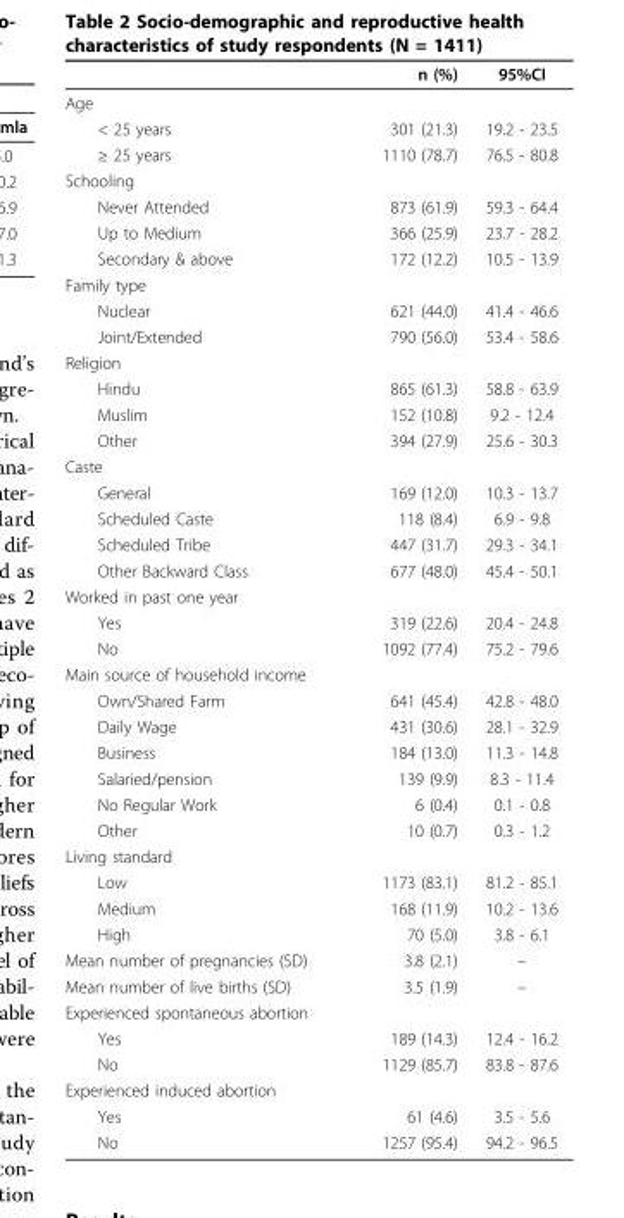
<table><thead><tr><td></td><td>n (%)</td><td>95%CI</td></tr></thead><tbody><tr><td colspan="3">Age</td></tr><tr><td>&lt; 25 years</td><td>301 (21.3)</td><td>19.2 - 23.5</td></tr><tr><td>≥ 25 years</td><td>1110 (78.7)</td><td>76.5 - 80.8</td></tr><tr><td colspan="3">Schooling</td></tr><tr><td>Never Attended</td><td>873 (61.9)</td><td>59.3 - 64.4</td></tr><tr><td>Up to Medium</td><td>366 (25.9)</td><td>23.7 - 28.2</td></tr><tr><td>Secondary &amp; above</td><td>172 (12.2)</td><td>10.5 - 13.9</td></tr><tr><td colspan="3">Family type</td></tr><tr><td>Nuclear</td><td>621 (44.0)</td><td>41.4 - 46.6</td></tr><tr><td>Joint/Extended</td><td>790 (56.0)</td><td>53.4 - 58.6</td></tr><tr><td colspan="3">Religion</td></tr><tr><td>Hindu</td><td>865 (61.3)</td><td>58.8 - 63.9</td></tr><tr><td>Muslim</td><td>152 (10.8)</td><td>9.2 - 12.4</td></tr><tr><td>Other</td><td>394 (27.9)</td><td>25.6 - 30.3</td></tr><tr><td colspan="3">Caste</td></tr><tr><td>General</td><td>169 (12.0)</td><td>10.3 - 13.7</td></tr><tr><td>Scheduled Caste</td><td>118 (8.4)</td><td>6.9 - 9.8</td></tr><tr><td>Scheduled Tribe</td><td>447 (31.7)</td><td>29.3 - 34.1</td></tr><tr><td>Other Backward Class</td><td>677 (48.0)</td><td>45.4 - 50.1</td></tr><tr><td colspan="3">Worked in past one year</td></tr><tr><td>Yes</td><td>319 (22.6)</td><td>20.4 - 24.8</td></tr><tr><td>No</td><td>1092 (77.4)</td><td>75.2 - 79.6</td></tr><tr><td colspan="3">Main source of household income</td></tr><tr><td>Own/Shared Farm</td><td>641 (45.4)</td><td>42.8 - 48.0</td></tr><tr><td>Daily Wage</td><td>431 (30.6)</td><td>28.1 - 32.9</td></tr><tr><td>Business</td><td>184 (13.0)</td><td>11.3 - 14.8</td></tr><tr><td>Salaried/pension</td><td>139 (9.9)</td><td>8.3 - 11.4</td></tr><tr><td>No Regular Work</td><td>6 (0.4)</td><td>0.1 - 0.8</td></tr><tr><td>Other</td><td>10 (0.7)</td><td>0.3 - 1.2</td></tr><tr><td colspan="3">Living standard</td></tr><tr><td>Low</td><td>1173 (83.1)</td><td>81.2 - 85.1</td></tr><tr><td>Medium</td><td>168 (11.9)</td><td>10.2 - 13.6</td></tr><tr><td>High</td><td>70 (5.0)</td><td>3.8 - 6.1</td></tr><tr><td>Mean number of pregnancies (SD)</td><td>3.8 (2.1)</td><td>–</td></tr><tr><td>Mean number of live births (SD)</td><td>3.5 (1.9)</td><td>–</td></tr><tr><td colspan="3">Experienced spontaneous abortion</td></tr><tr><td>Yes</td><td>189 (14.3)</td><td>12.4 - 16.2</td></tr><tr><td>No</td><td>1129 (85.7)</td><td>83.8 - 87.6</td></tr><tr><td colspan="3">Experienced induced abortion</td></tr><tr><td>Yes</td><td>61 (4.6)</td><td>3.5 - 5.6</td></tr><tr><td>No</td><td>1257 (95.4)</td><td>94.2 - 96.5</td></tr></tbody></table>